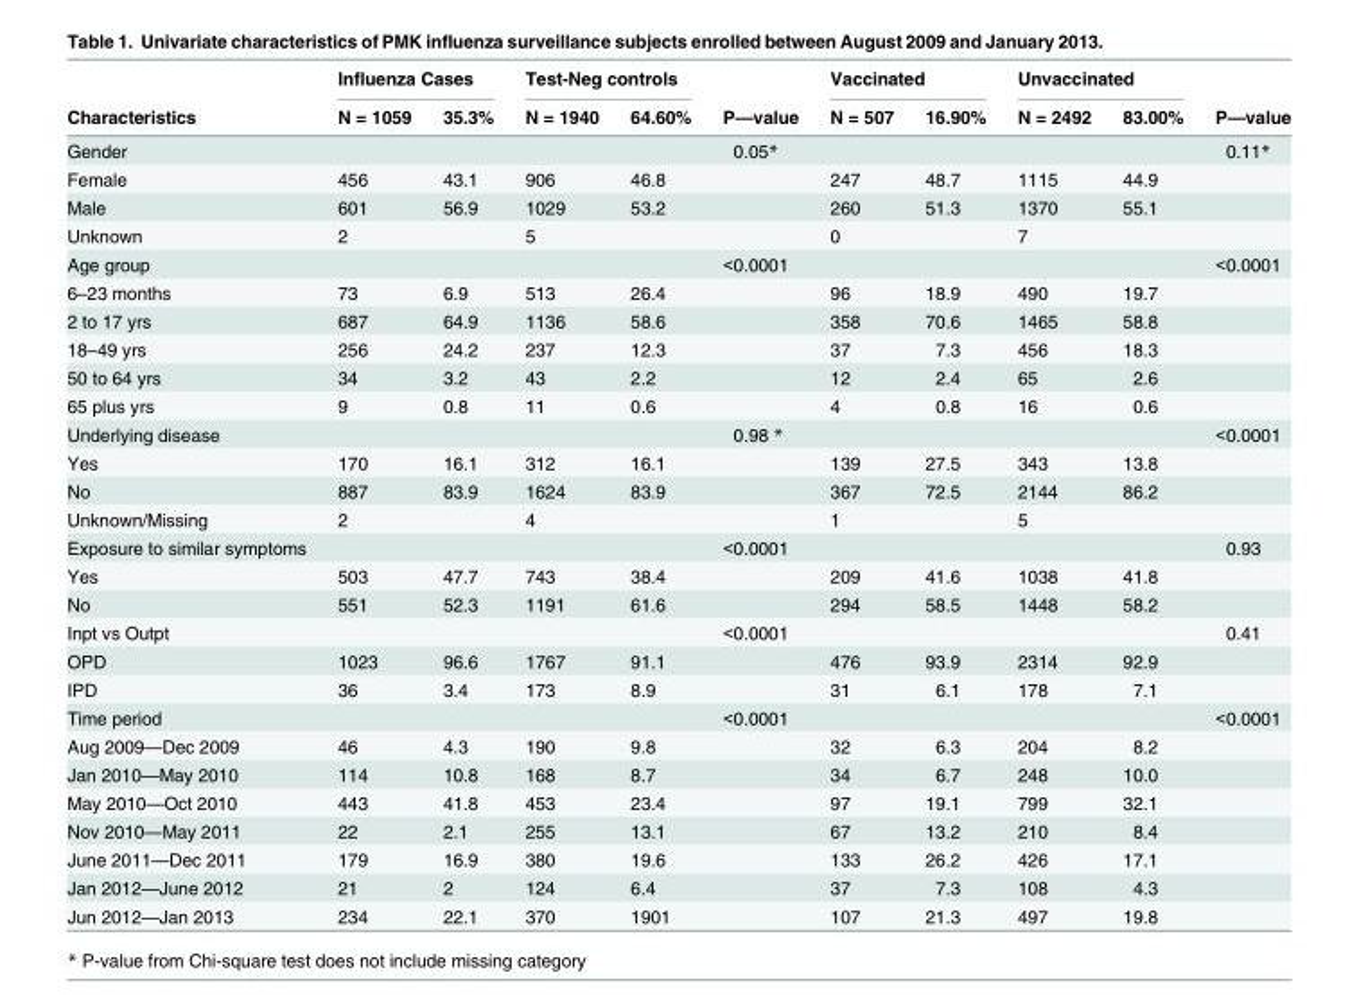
<table><thead><tr><td rowspan="2">Characteristics</td><td colspan="2">Influenza Cases</td><td colspan="2">Test-Neg controls</td><td rowspan="2">P—value</td><td colspan="2">Vaccinated</td><td colspan="2">Unvaccinated</td><td rowspan="2">P—value</td></tr><tr><td>N = 1059</td><td>35.3%</td><td>N = 1940</td><td>64.60%</td><td>N = 507</td><td>16.90%</td><td>N = 2492</td><td>83.00%</td></tr></thead><tbody><tr><td>Gender</td><td></td><td></td><td></td><td></td><td>0.05*</td><td></td><td></td><td></td><td></td><td>0.11*</td></tr><tr><td>Female</td><td>456</td><td>43.1</td><td>906</td><td>46.8</td><td></td><td>247</td><td>48.7</td><td>1115</td><td>44.9</td><td></td></tr><tr><td>Male</td><td>601</td><td>56.9</td><td>1029</td><td>53.2</td><td></td><td>260</td><td>51.3</td><td>1370</td><td>55.1</td><td></td></tr><tr><td>Unknown</td><td>2</td><td></td><td>5</td><td></td><td></td><td>0</td><td></td><td>7</td><td></td><td></td></tr><tr><td>Age group</td><td></td><td></td><td></td><td></td><td>&lt;0.0001</td><td></td><td></td><td></td><td></td><td>&lt;0.0001</td></tr><tr><td>6–23 months</td><td>73</td><td>6.9</td><td>513</td><td>26.4</td><td></td><td>96</td><td>18.9</td><td>490</td><td>19.7</td><td></td></tr><tr><td>2 to 17 yrs</td><td>687</td><td>64.9</td><td>1136</td><td>58.6</td><td></td><td>358</td><td>70.6</td><td>1465</td><td>58.8</td><td></td></tr><tr><td>18–49 yrs</td><td>256</td><td>24.2</td><td>237</td><td>12.3</td><td></td><td>37</td><td>7.3</td><td>456</td><td>18.3</td><td></td></tr><tr><td>50 to 64 yrs</td><td>34</td><td>3.2</td><td>43</td><td>2.2</td><td></td><td>12</td><td>2.4</td><td>65</td><td>2.6</td><td></td></tr><tr><td>65 plus yrs</td><td>9</td><td>0.8</td><td>11</td><td>0.6</td><td></td><td>4</td><td>0.8</td><td>16</td><td>0.6</td><td></td></tr><tr><td>Underlying disease</td><td></td><td></td><td></td><td></td><td>0.98 *</td><td></td><td></td><td></td><td></td><td>&lt;0.0001</td></tr><tr><td>Yes</td><td>170</td><td>16.1</td><td>312</td><td>16.1</td><td></td><td>139</td><td>27.5</td><td>343</td><td>13.8</td><td></td></tr><tr><td>No</td><td>887</td><td>83.9</td><td>1624</td><td>83.9</td><td></td><td>367</td><td>72.5</td><td>2144</td><td>86.2</td><td></td></tr><tr><td>Unknown/Missing</td><td>2</td><td></td><td>4</td><td></td><td></td><td>1</td><td></td><td>5</td><td></td><td></td></tr><tr><td>Exposure to similar symptoms</td><td></td><td></td><td></td><td></td><td>&lt;0.0001</td><td></td><td></td><td></td><td></td><td>0.93</td></tr><tr><td>Yes</td><td>503</td><td>47.7</td><td>743</td><td>38.4</td><td></td><td>209</td><td>41.6</td><td>1038</td><td>41.8</td><td></td></tr><tr><td>No</td><td>551</td><td>52.3</td><td>1191</td><td>61.6</td><td></td><td>294</td><td>58.5</td><td>1448</td><td>58.2</td><td></td></tr><tr><td>Inpt vs Outpt</td><td></td><td></td><td></td><td></td><td>&lt;0.0001</td><td></td><td></td><td></td><td></td><td>0.41</td></tr><tr><td>OPD</td><td>1023</td><td>96.6</td><td>1767</td><td>91.1</td><td></td><td>476</td><td>93.9</td><td>2314</td><td>92.9</td><td></td></tr><tr><td>IPD</td><td>36</td><td>3.4</td><td>173</td><td>8.9</td><td></td><td>31</td><td>6.1</td><td>178</td><td>7.1</td><td></td></tr><tr><td>Time period</td><td></td><td></td><td></td><td></td><td>&lt;0.0001</td><td></td><td></td><td></td><td></td><td>&lt;0.0001</td></tr><tr><td>Aug 2009—Dec 2009</td><td>46</td><td>4.3</td><td>190</td><td>9.8</td><td></td><td>32</td><td>6.3</td><td>204</td><td>8.2</td><td></td></tr><tr><td>Jan 2010—May 2010</td><td>114</td><td>10.8</td><td>168</td><td>8.7</td><td></td><td>34</td><td>6.7</td><td>248</td><td>10.0</td><td></td></tr><tr><td>May 2010—Oct 2010</td><td>443</td><td>41.8</td><td>453</td><td>23.4</td><td></td><td>97</td><td>19.1</td><td>799</td><td>32.1</td><td></td></tr><tr><td>Nov 2010—May 2011</td><td>22</td><td>2.1</td><td>255</td><td>13.1</td><td></td><td>67</td><td>13.2</td><td>210</td><td>8.4</td><td></td></tr><tr><td>June 2011—Dec 2011</td><td>179</td><td>16.9</td><td>380</td><td>19.6</td><td></td><td>133</td><td>26.2</td><td>426</td><td>17.1</td><td></td></tr><tr><td>Jan 2012—June 2012</td><td>21</td><td>2</td><td>124</td><td>6.4</td><td></td><td>37</td><td>7.3</td><td>108</td><td>4.3</td><td></td></tr><tr><td>Jun 2012—Jan 2013</td><td>234</td><td>22.1</td><td>370</td><td>1901</td><td></td><td>107</td><td>21.3</td><td>497</td><td>19.8</td><td></td></tr></tbody></table>